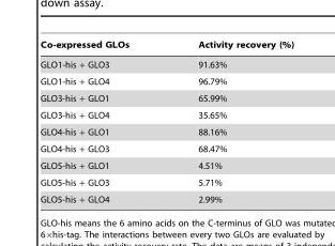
<table><thead><tr><td>Co-expressed GLOs</td><td>Activity recovery (%)</td></tr></thead><tbody><tr><td>GLO1-his + GLO3</td><td>91.63%</td></tr><tr><td>GLO1-his + GLO4</td><td>96.79%</td></tr><tr><td>GLO3-his + GLO1</td><td>65.99%</td></tr><tr><td>GLO3-his + GLO4</td><td>35.65%</td></tr><tr><td>GLO4-his + GLO1</td><td>88.16%</td></tr><tr><td>GLO4-his + GLO3</td><td>68.47%</td></tr><tr><td>GLO5-his + GLO1</td><td>4.51%</td></tr><tr><td>GLO5-his + GLO3</td><td>5.71%</td></tr><tr><td>GLO5-his + GLO4</td><td>2.99%</td></tr></tbody></table>